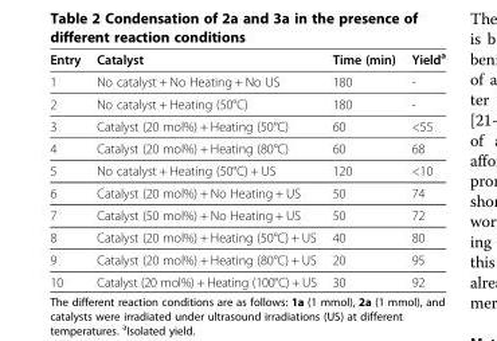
<table><thead><tr><td>Entry</td><td>Catalyst</td><td>Time (min)</td><td>Yield<sup>a</sup></td></tr></thead><tbody><tr><td>1</td><td>No catalyst + No Heating + No US</td><td>180</td><td>-</td></tr><tr><td>2</td><td>No catalyst + Heating (50°C)</td><td>180</td><td>-</td></tr><tr><td>3</td><td>Catalyst (20 mol%) + Heating (50°C)</td><td>60</td><td>&lt;55</td></tr><tr><td>4</td><td>Catalyst (20 mol%) + Heating (80°C)</td><td>60</td><td>68</td></tr><tr><td>5</td><td>No catalyst + Heating (50°C) + US</td><td>120</td><td>&lt;10</td></tr><tr><td>6</td><td>Catalyst (20 mol%) + No Heating + US</td><td>50</td><td>74</td></tr><tr><td>7</td><td>Catalyst (50 mol%) + No Heating + US</td><td>50</td><td>72</td></tr><tr><td>8</td><td>Catalyst (20 mol%) + Heating (50°C) + US</td><td>40</td><td>80</td></tr><tr><td>9</td><td>Catalyst (20 mol%) + Heating (80°C) + US</td><td>20</td><td>95</td></tr><tr><td>10</td><td>Catalyst (20 mol%) + Heating (100°C) + US</td><td>30</td><td>92</td></tr></tbody></table>